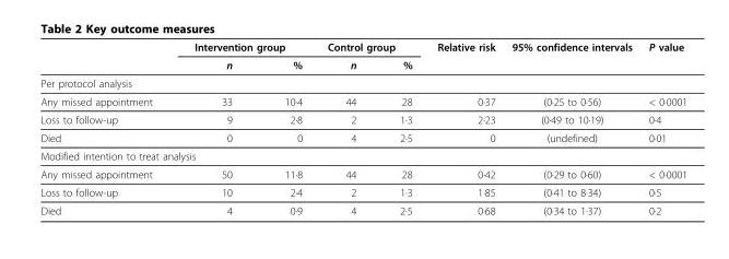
<table><thead><tr><td rowspan="2"></td><td colspan="2">Intervention group</td><td colspan="2">Control group</td><td rowspan="2">Relative risk</td><td rowspan="2">95% confidence intervals</td><td rowspan="2">P value</td></tr><tr><td>n</td><td>%</td><td>n</td><td>%</td></tr></thead><tbody><tr><td colspan="8">Per protocol analysis</td></tr><tr><td>Any missed appointment</td><td>33</td><td>10·4</td><td>44</td><td>28</td><td>0·37</td><td>(0·25 to 0·56)</td><td>&lt; 0·0001</td></tr><tr><td>Loss to follow-up</td><td>9</td><td>2·8</td><td>2</td><td>1·3</td><td>2·23</td><td>(0·49 to 10·19)</td><td>0·4</td></tr><tr><td>Died</td><td>0</td><td>0</td><td>4</td><td>2·5</td><td>0</td><td>(undefined)</td><td>0·01</td></tr><tr><td colspan="8">Modified intention to treat analysis</td></tr><tr><td>Any missed appointment</td><td>50</td><td>11·8</td><td>44</td><td>28</td><td>0·42</td><td>(0·29 to 0·60)</td><td>&lt; 0·0001</td></tr><tr><td>Loss to follow-up</td><td>10</td><td>2·4</td><td>2</td><td>1·3</td><td>1·85</td><td>(0·41 to 8·34)</td><td>0·5</td></tr><tr><td>Died</td><td>4</td><td>0·9</td><td>4</td><td>2·5</td><td>0·68</td><td>(0·34 to 1·37)</td><td>0·2</td></tr></tbody></table>